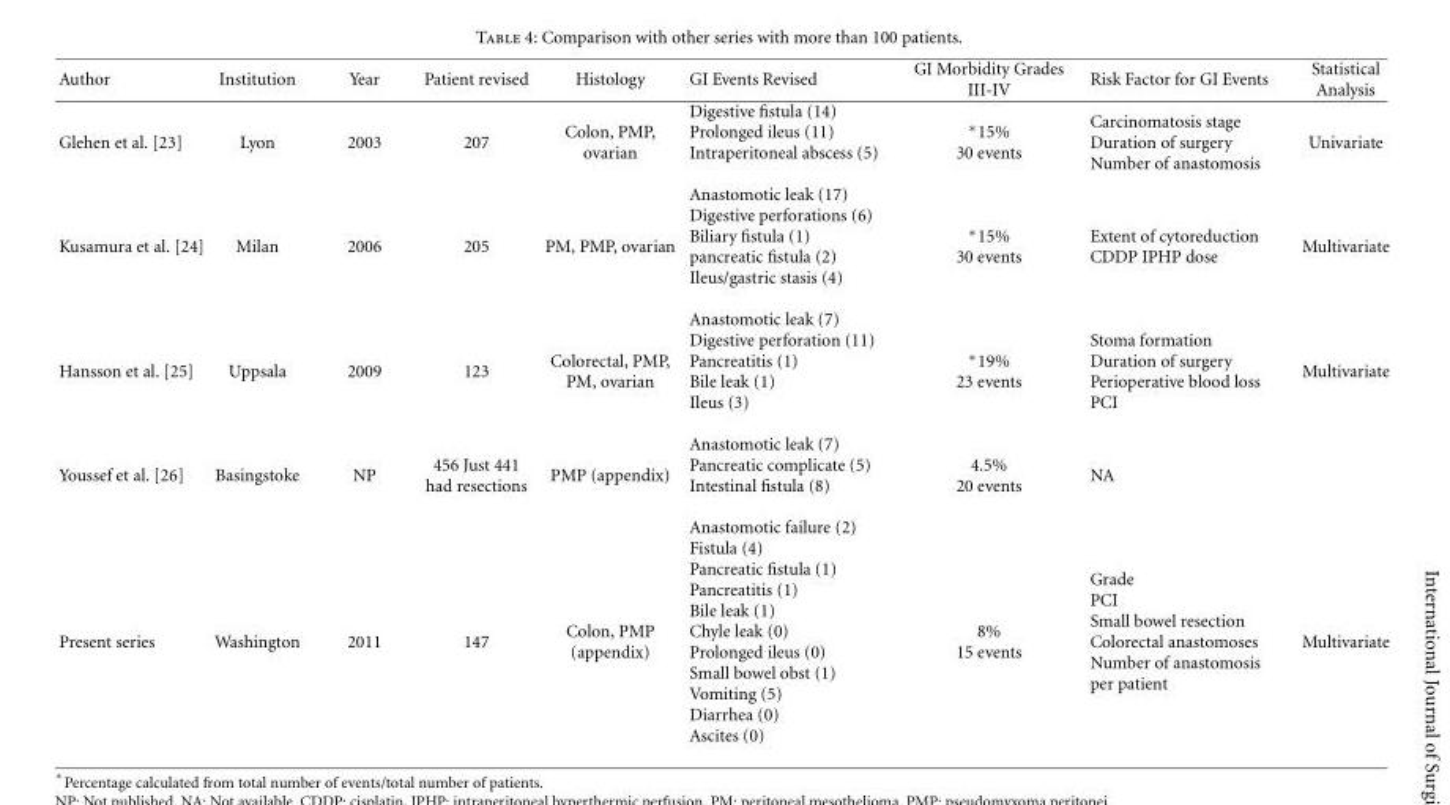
<table><thead><tr><td>Author</td><td>Institution</td><td>Year</td><td>Patient revised</td><td>Histology</td><td>GI Events Revised</td><td>GI Morbidity Grades III-IV</td><td>Risk Factor for GI Events</td><td>Statistical Analysis</td></tr></thead><tbody><tr><td>Glehen et al. [23]</td><td>Lyon</td><td>2003</td><td>207</td><td>Colon, PMP, ovarian</td><td>Digestive fistula (14) Prolonged ileus (11) Intraperitoneal abscess (5)</td><td>∗15% 30 events</td><td>Carcinomatosis stage Duration of surgery Number of anastomosis</td><td>Univariate</td></tr><tr><td>Kusamura et al. [24]</td><td>Milan</td><td>2006</td><td>205</td><td>PM, PMP, ovarian</td><td>Anastomotic leak (17) Digestive perforations (6) Biliary fistula (1) pancreatic fistula (2) Ileus/gastric stasis (4)</td><td>∗15% 30 events</td><td>Extent of cytoreduction CDDP IPHP dose</td><td>Multivariate</td></tr><tr><td>Hansson et al. [25]</td><td>Uppsala</td><td>2009</td><td>123</td><td>Colorectal, PMP, PM, ovarian</td><td>Anastomotic leak (7) Digestive perforation (11) Pancreatitis (1) Bile leak (1) Ileus (3)</td><td>∗19% 23 events</td><td>Stoma formation Duration of surgery Perioperative blood loss PCI</td><td>Multivariate</td></tr><tr><td>Youssef et al. [26]</td><td>Basingstoke</td><td>NP</td><td>456 Just 441 had resections</td><td>PMP (appendix)</td><td>Anastomotic leak (7) Pancreatic complicate (5) Intestinal fistula (8)</td><td>4.5% 20 events</td><td>NA</td><td></td></tr><tr><td>Present series</td><td>Washington</td><td>2011</td><td>147</td><td>Colon, PMP (appendix)</td><td>Anastomotic failure (2) Fistula (4) Pancreatic fistula (1) Pancreatitis (1) Bile leak (1) Chyle leak (0) Prolonged ileus (0) Small bowel obst (1) Vomiting (5) Diarrhea (0) Ascites (0)</td><td>8% 15 events</td><td>Grade PCI Small bowel resection Colorectal anastomoses Number of anastomosis per patient</td><td>Multivariate</td></tr></tbody></table>